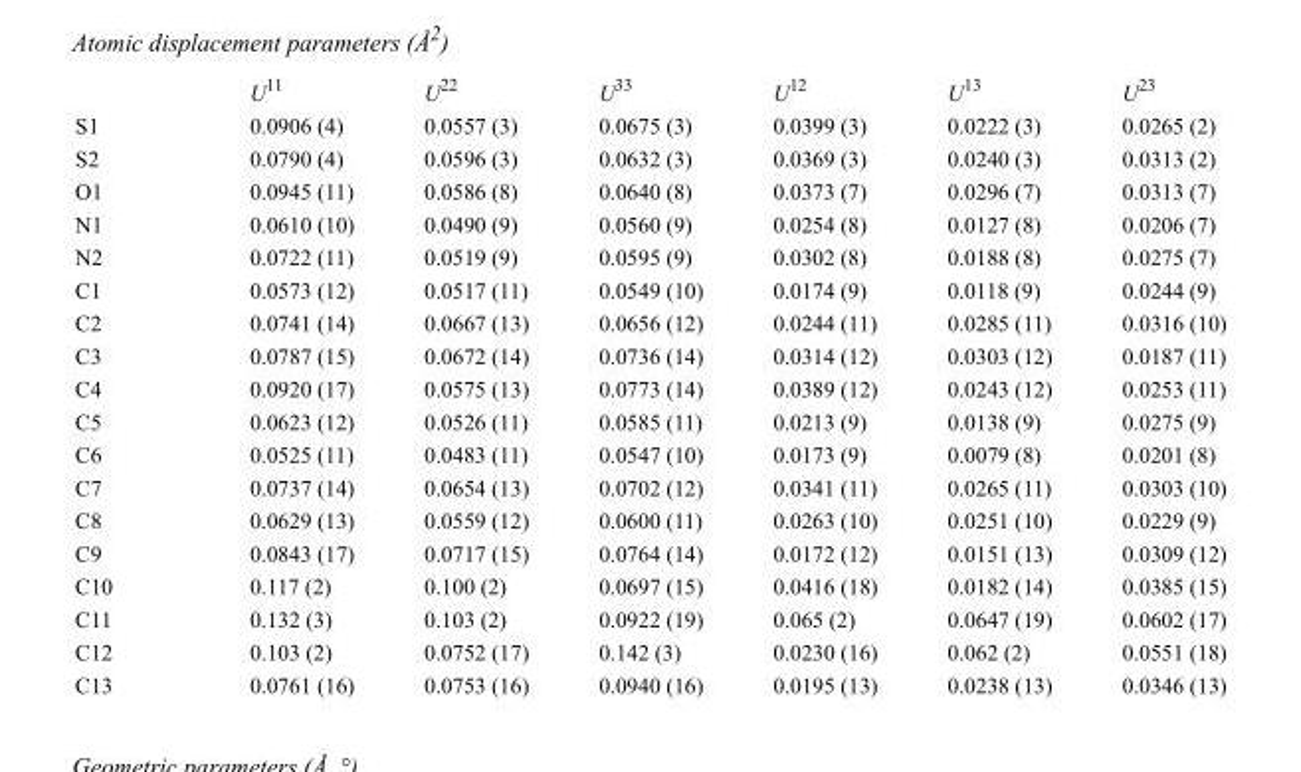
<table><thead><tr><td></td><td>U<sup>11</sup></td><td>U<sup>22</sup></td><td>U<sup>33</sup></td><td>U<sup>12</sup></td><td>U<sup>13</sup></td><td>U<sup>23</sup></td></tr></thead><tbody><tr><td>S1</td><td>0.0906 (4)</td><td>0.0557 (3)</td><td>0.0675 (3)</td><td>0.0399 (3)</td><td>0.0222 (3)</td><td>0.0265 (2)</td></tr><tr><td>S2</td><td>0.0790 (4)</td><td>0.0596 (3)</td><td>0.0632 (3)</td><td>0.0369 (3)</td><td>0.0240 (3)</td><td>0.0313 (2)</td></tr><tr><td>O1</td><td>0.0945 (11)</td><td>0.0586 (8)</td><td>0.0640 (8)</td><td>0.0373 (7)</td><td>0.0296 (7)</td><td>0.0313 (7)</td></tr><tr><td>N1</td><td>0.0610 (10)</td><td>0.0490 (9)</td><td>0.0560 (9)</td><td>0.0254 (8)</td><td>0.0127 (8)</td><td>0.0206 (7)</td></tr><tr><td>N2</td><td>0.0722 (11)</td><td>0.0519 (9)</td><td>0.0595 (9)</td><td>0.0302 (8)</td><td>0.0188 (8)</td><td>0.0275 (7)</td></tr><tr><td>C1</td><td>0.0573 (12)</td><td>0.0517 (11)</td><td>0.0549 (10)</td><td>0.0174 (9)</td><td>0.0118 (9)</td><td>0.0244 (9)</td></tr><tr><td>C2</td><td>0.0741 (14)</td><td>0.0667 (13)</td><td>0.0656 (12)</td><td>0.0244 (11)</td><td>0.0285 (11)</td><td>0.0316 (10)</td></tr><tr><td>C3</td><td>0.0787 (15)</td><td>0.0672 (14)</td><td>0.0736 (14)</td><td>0.0314 (12)</td><td>0.0303 (12)</td><td>0.0187 (11)</td></tr><tr><td>C4</td><td>0.0920 (17)</td><td>0.0575 (13)</td><td>0.0773 (14)</td><td>0.0389 (12)</td><td>0.0243 (12)</td><td>0.0253 (11)</td></tr><tr><td>C5</td><td>0.0623 (12)</td><td>0.0526 (11)</td><td>0.0585 (11)</td><td>0.0213 (9)</td><td>0.0138 (9)</td><td>0.0275 (9)</td></tr><tr><td>C6</td><td>0.0525 (11)</td><td>0.0483 (11)</td><td>0.0547 (10)</td><td>0.0173 (9)</td><td>0.0079 (8)</td><td>0.0201 (8)</td></tr><tr><td>C7</td><td>0.0737 (14)</td><td>0.0654 (13)</td><td>0.0702 (12)</td><td>0.0341 (11)</td><td>0.0265 (11)</td><td>0.0303 (10)</td></tr><tr><td>C8</td><td>0.0629 (13)</td><td>0.0559 (12)</td><td>0.0600 (11)</td><td>0.0263 (10)</td><td>0.0251 (10)</td><td>0.0229 (9)</td></tr><tr><td>C9</td><td>0.0843 (17)</td><td>0.0717 (15)</td><td>0.0764 (14)</td><td>0.0172 (12)</td><td>0.0151 (13)</td><td>0.0309 (12)</td></tr><tr><td>C10</td><td>0.117 (2)</td><td>0.100 (2)</td><td>0.0697 (15)</td><td>0.0416 (18)</td><td>0.0182 (14)</td><td>0.0385 (15)</td></tr><tr><td>C11</td><td>0.132 (3)</td><td>0.103 (2)</td><td>0.0922 (19)</td><td>0.065 (2)</td><td>0.0647 (19)</td><td>0.0602 (17)</td></tr><tr><td>C12</td><td>0.103 (2)</td><td>0.0752 (17)</td><td>0.142 (3)</td><td>0.0230 (16)</td><td>0.062 (2)</td><td>0.0551 (18)</td></tr><tr><td>C13</td><td>0.0761 (16)</td><td>0.0753 (16)</td><td>0.0940 (16)</td><td>0.0195 (13)</td><td>0.0238 (13)</td><td>0.0346 (13)</td></tr></tbody></table>